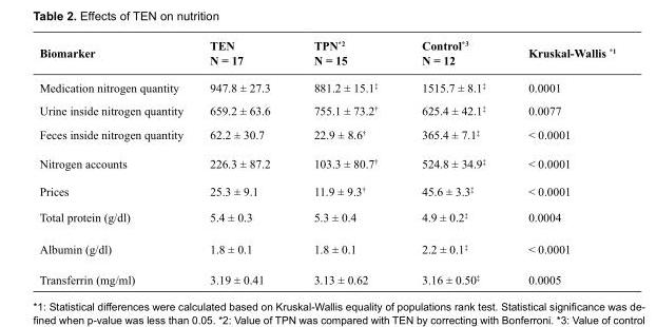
<table><thead><tr><td>Biomarker</td><td>TEN N = 17</td><td>TPN<sup>*2</sup> N = 15</td><td>Control<sup>*3</sup> N = 12</td><td>Kruskal-Wallis <sup>*1</sup></td></tr></thead><tbody><tr><td>Medication nitrogen quantity</td><td>947.8 ± 27.3</td><td>881.2 ± 15.1<sup>‡</sup></td><td>1515.7 ± 8.1<sup>‡</sup></td><td>0.0001</td></tr><tr><td>Urine inside nitrogen quantity</td><td>659.2 ± 63.6</td><td>755.1 ± 73.2<sup>†</sup></td><td>625.4 ± 42.1<sup>‡</sup></td><td>0.0077</td></tr><tr><td>Feces inside nitrogen quantity</td><td>62.2 ± 30.7</td><td>22.9 ± 8.6<sup>†</sup></td><td>365.4 ± 7.1<sup>‡</sup></td><td>&lt; 0.0001</td></tr><tr><td>Nitrogen accounts</td><td>226.3 ± 87.2</td><td>103.3 ± 80.7<sup>†</sup></td><td>524.8 ± 34.9<sup>‡</sup></td><td>&lt; 0.0001</td></tr><tr><td>Prices</td><td>25.3 ± 9.1</td><td>11.9 ± 9.3<sup>†</sup></td><td>45.6 ± 3.3<sup>‡</sup></td><td>&lt; 0.0001</td></tr><tr><td>Total protein (g/dl)</td><td>5.4 ± 0.3</td><td>5.3 ± 0.4</td><td>4.9 ± 0.2<sup>‡</sup></td><td>0.0004</td></tr><tr><td>Albumin (g/dl)</td><td>1.8 ± 0.1</td><td>1.8 ± 0.1</td><td>2.2 ± 0.1<sup>‡</sup></td><td>&lt; 0.0001</td></tr><tr><td>Transferrin (mg/ml)</td><td>3.19 ± 0.41</td><td>3.13 ± 0.62</td><td>3.16 ± 0.50<sup>‡</sup></td><td>0.0005</td></tr></tbody></table>